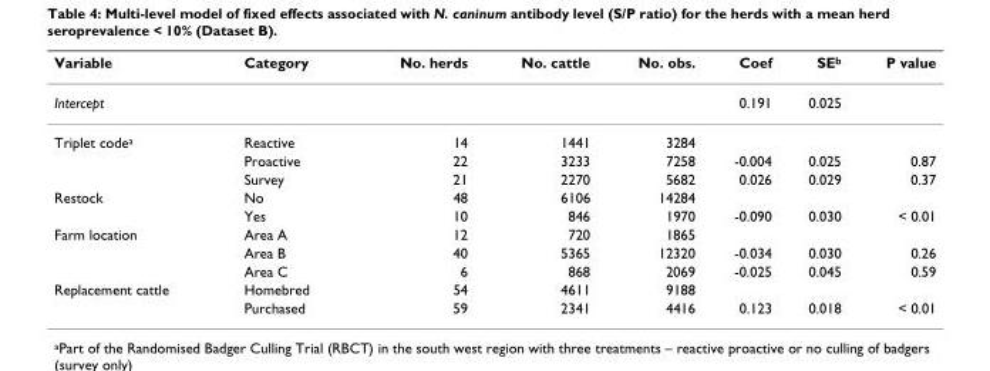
<table><thead><tr><td>Variable</td><td>Category</td><td>No. herds</td><td>No. cattle</td><td>No. obs.</td><td>Coef</td><td>SE<sup>b</sup></td><td>P value</td></tr></thead><tbody><tr><td>Intercept</td><td></td><td></td><td></td><td></td><td>0.191</td><td>0.025</td><td></td></tr><tr><td rowspan="3">Triplet code<sup>a</sup></td><td>Reactive</td><td>14</td><td>1441</td><td>3284</td><td></td><td></td><td></td></tr><tr><td>Proactive</td><td>22</td><td>3233</td><td>7258</td><td>-0.004</td><td>0.025</td><td>0.87</td></tr><tr><td>Survey</td><td>21</td><td>2270</td><td>5682</td><td>0.026</td><td>0.029</td><td>0.37</td></tr><tr><td rowspan="2">Restock</td><td>No</td><td>48</td><td>6106</td><td>14284</td><td></td><td></td><td></td></tr><tr><td>Yes</td><td>10</td><td>846</td><td>1970</td><td>-0.090</td><td>0.030</td><td>&lt; 0.01</td></tr><tr><td rowspan="3">Farm location</td><td>Area A</td><td>12</td><td>720</td><td>1865</td><td></td><td></td><td></td></tr><tr><td>Area B</td><td>40</td><td>5365</td><td>12320</td><td>-0.034</td><td>0.030</td><td>0.26</td></tr><tr><td>Area C</td><td>6</td><td>868</td><td>2069</td><td>-0.025</td><td>0.045</td><td>0.59</td></tr><tr><td rowspan="2">Replacement cattle</td><td>Homebred</td><td>54</td><td>4611</td><td>9188</td><td></td><td></td><td></td></tr><tr><td>Purchased</td><td>59</td><td>2341</td><td>4416</td><td>0.123</td><td>0.018</td><td>&lt; 0.01</td></tr></tbody></table>